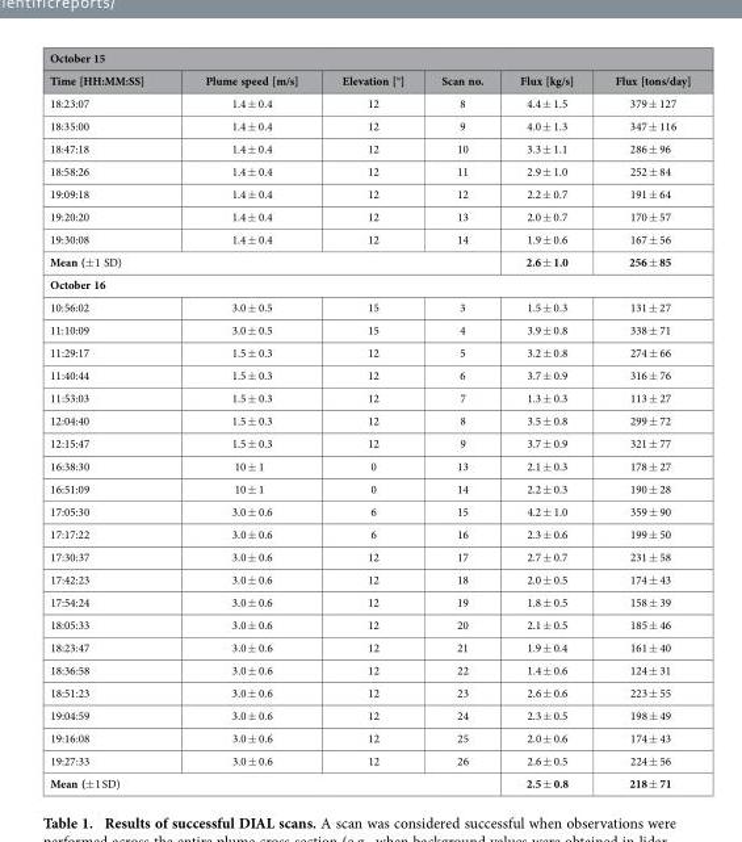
<table><thead><tr><td colspan="6">October 15</td></tr><tr><td>Time [HH:MM:SS]</td><td>Plume speed [m/s]</td><td>Elevation [°]</td><td>Scan no.</td><td>Flux [kg/s]</td><td>Flux [tons/day]</td></tr></thead><tbody><tr><td>18:23:07</td><td>1.4 ± 0.4</td><td>12</td><td>8</td><td>4.4 ± 1.5</td><td>379 ± 127</td></tr><tr><td>18:35:00</td><td>1.4 ± 0.4</td><td>12</td><td>9</td><td>4.0 ± 1.3</td><td>347 ± 116</td></tr><tr><td>18:47:18</td><td>1.4 ± 0.4</td><td>12</td><td>10</td><td>3.3 ± 1.1</td><td>286 ± 96</td></tr><tr><td>18:58:26</td><td>1.4 ± 0.4</td><td>12</td><td>11</td><td>2.9 ± 1.0</td><td>252 ± 84</td></tr><tr><td>19:09:18</td><td>1.4 ± 0.4</td><td>12</td><td>12</td><td>2.2 ± 0.7</td><td>191 ± 64</td></tr><tr><td>19:20:20</td><td>1.4 ± 0.4</td><td>12</td><td>13</td><td>2.0 ± 0.7</td><td>170 ± 57</td></tr><tr><td>19:30:08</td><td>1.4 ± 0.4</td><td>12</td><td>14</td><td>1.9 ± 0.6</td><td>167 ± 56</td></tr><tr><td colspan="4">Mean (± 1 SD)</td><td>2.6 ± 1.0</td><td>256 ± 85</td></tr><tr><td colspan="6">October 16</td></tr><tr><td>10:56:02</td><td>3.0 ± 0.5</td><td>15</td><td>3</td><td>1.5 ± 0.3</td><td>131 ± 27</td></tr><tr><td>11:10:09</td><td>3.0 ± 0.5</td><td>15</td><td>4</td><td>3.9 ± 0.8</td><td>338 ± 71</td></tr><tr><td>11:29:17</td><td>1.5 ± 0.3</td><td>12</td><td>5</td><td>3.2 ± 0.8</td><td>274 ± 66</td></tr><tr><td>11:40:44</td><td>1.5 ± 0.3</td><td>12</td><td>6</td><td>3.7 ± 0.9</td><td>316 ± 76</td></tr><tr><td>11:53:03</td><td>1.5 ± 0.3</td><td>12</td><td>7</td><td>1.3 ± 0.3</td><td>113 ± 27</td></tr><tr><td>12:04:40</td><td>1.5 ± 0.3</td><td>12</td><td>8</td><td>3.5 ± 0.8</td><td>299 ± 72</td></tr><tr><td>12:15:47</td><td>1.5 ± 0.3</td><td>12</td><td>9</td><td>3.7 ± 0.9</td><td>321 ± 77</td></tr><tr><td>16:38:30</td><td>10 ± 1</td><td>0</td><td>13</td><td>2.1 ± 0.3</td><td>178 ± 27</td></tr><tr><td>16:51:09</td><td>10 ± 1</td><td>0</td><td>14</td><td>2.2 ± 0.3</td><td>190 ± 28</td></tr><tr><td>17:05:30</td><td>3.0 ± 0.6</td><td>6</td><td>15</td><td>4.2 ± 1.0</td><td>359 ± 90</td></tr><tr><td>17:17:22</td><td>3.0 ± 0.6</td><td>6</td><td>16</td><td>2.3 ± 0.6</td><td>199 ± 50</td></tr><tr><td>17:30:37</td><td>3.0 ± 0.6</td><td>12</td><td>17</td><td>2.7 ± 0.7</td><td>231 ± 58</td></tr><tr><td>17:42:23</td><td>3.0 ± 0.6</td><td>12</td><td>18</td><td>2.0 ± 0.5</td><td>174 ± 43</td></tr><tr><td>17:54:24</td><td>3.0 ± 0.6</td><td>12</td><td>19</td><td>1.8 ± 0.5</td><td>158 ± 39</td></tr><tr><td>18:05:33</td><td>3.0 ± 0.6</td><td>12</td><td>20</td><td>2.1 ± 0.5</td><td>185 ± 46</td></tr><tr><td>18:23:47</td><td>3.0 ± 0.6</td><td>12</td><td>21</td><td>1.9 ± 0.4</td><td>161 ± 40</td></tr><tr><td>18:36:58</td><td>3.0 ± 0.6</td><td>12</td><td>22</td><td>1.4 ± 0.6</td><td>124 ± 31</td></tr><tr><td>18:51:23</td><td>3.0 ± 0.6</td><td>12</td><td>23</td><td>2.6 ± 0.6</td><td>223 ± 55</td></tr><tr><td>19:04:59</td><td>3.0 ± 0.6</td><td>12</td><td>24</td><td>2.3 ± 0.5</td><td>198 ± 49</td></tr><tr><td>19:16:08</td><td>3.0 ± 0.6</td><td>12</td><td>25</td><td>2.0 ± 0.6</td><td>174 ± 43</td></tr><tr><td>19:27:33</td><td>3.0 ± 0.6</td><td>12</td><td>26</td><td>2.6 ± 0.5</td><td>224 ± 56</td></tr><tr><td colspan="4">Mean (± 1 SD)</td><td>2.5 ± 0.8</td><td>218 ± 71</td></tr></tbody></table>